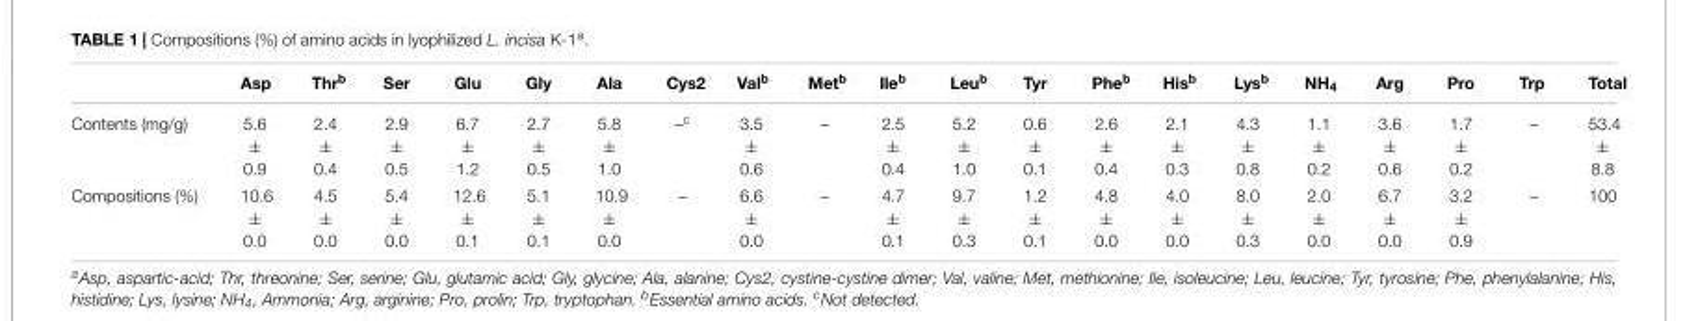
<table><thead><tr><td></td><td>Asp</td><td>Thr<sup>b</sup></td><td>Ser</td><td>Glu</td><td>Gly</td><td>Ala</td><td>Cys2</td><td>Val<sup>b</sup></td><td>Met<sup>b</sup></td><td>Ile<sup>b</sup></td><td>Leu<sup>b</sup></td><td>Tyr</td><td>Phe<sup>b</sup></td><td>His<sup>b</sup></td><td>Lys<sup>b</sup></td><td>NH<sub>4</sub></td><td>Arg</td><td>Pro</td><td>Trp</td><td>Total</td></tr></thead><tbody><tr><td>Contents (mg/g)</td><td>5.6 ± 0.9</td><td>2.4 ± 0.4</td><td>2.9 ± 0.5</td><td>6.7 ± 1.2</td><td>2.7 ± 0.5</td><td>5.8 ± 1.0</td><td>–<sup>c</sup></td><td>3.5 ± 0.6</td><td>–</td><td>2.5 ± 0.4</td><td>5.2 ± 1.0</td><td>0.6 ± 0.1</td><td>2.6 ± 0.4</td><td>2.1 ± 0.3</td><td>4.3 ± 0.8</td><td>1.1 ± 0.2</td><td>3.6 ± 0.6</td><td>1.7 ± 0.2</td><td>–</td><td>53.4 ± 8.8</td></tr><tr><td>Compositions (%)</td><td>10.6 ± 0.0</td><td>4.5 ± 0.0</td><td>5.4 ± 0.0</td><td>12.6 ± 0.1</td><td>5.1 ± 0.1</td><td>10.9 ± 0.0</td><td>–</td><td>6.6 ± 0.0</td><td>–</td><td>4.7 ± 0.1</td><td>9.7 ± 0.3</td><td>1.2 ± 0.1</td><td>4.8 ± 0.0</td><td>4.0 ± 0.0</td><td>8.0 ± 0.3</td><td>2.0 ± 0.0</td><td>6.7 ± 0.0</td><td>3.2 ± 0.9</td><td>–</td><td>100</td></tr></tbody></table>